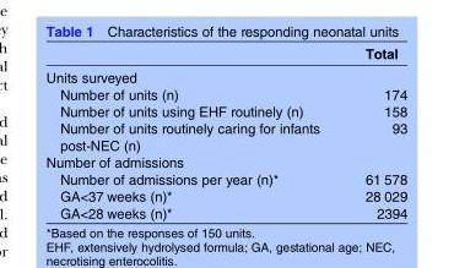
<table><thead><tr><td></td><td>Total</td></tr></thead><tbody><tr><td colspan="2">Units surveyed</td></tr><tr><td>Number of units (n)</td><td>174</td></tr><tr><td>Number of units using EHF routinely (n)</td><td>158</td></tr><tr><td>Number of units routinely caring for infants post-NEC (n)</td><td>93</td></tr><tr><td colspan="2">Number of admissions</td></tr><tr><td>Number of admissions per year (n)*</td><td>61 578</td></tr><tr><td>GA&lt;37 weeks (n)*</td><td>28 029</td></tr><tr><td>GA&lt;28 weeks (n)*</td><td>2394</td></tr></tbody></table>